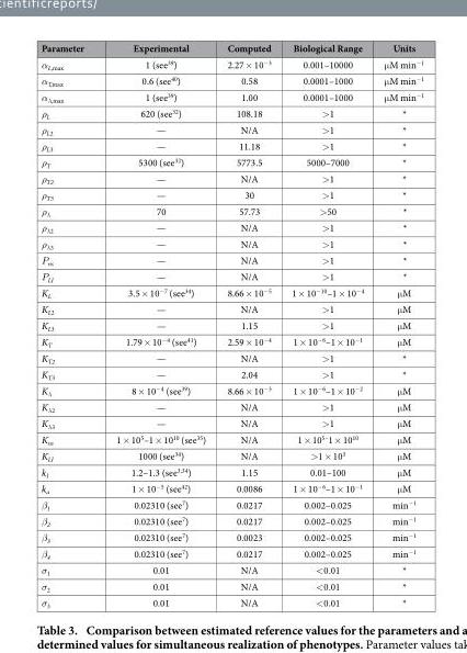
<table><thead><tr><td>Parameter</td><td>Experimental</td><td>Computed</td><td>Biological Range</td><td>Units</td></tr></thead><tbody><tr><td>α<sub>L,max</sub></td><td>1 (see<sup>39</sup>)</td><td>2.27 × 10<sup>−3</sup></td><td>0.001–10000</td><td>μ M min<sup>−1</sup></td></tr><tr><td>α<sub>T,max</sub></td><td>0.6 (see<sup>40</sup>)</td><td>0.58</td><td>0.0001–1000</td><td>μ M min<sup>−1</sup></td></tr><tr><td>α<sub>λ,max</sub></td><td>1 (see<sup>39</sup>)</td><td>1.00</td><td>0.0001–1000</td><td>μ M min<sup>−1</sup></td></tr><tr><td>ρ<sub>L</sub></td><td>620 (see<sup>32</sup>)</td><td>108.18</td><td>&gt; 1</td><td>*</td></tr><tr><td>ρ<sub>L2</sub></td><td>—</td><td>N/A</td><td>&gt; 1</td><td>*</td></tr><tr><td>ρ<sub>L3</sub></td><td>—</td><td>11.18</td><td>&gt; 1</td><td>*</td></tr><tr><td>ρ<sub>T</sub></td><td>5300 (see<sup>32</sup>)</td><td>5773.5</td><td>5000–7000</td><td>*</td></tr><tr><td>ρ<sub>T2</sub></td><td>—</td><td>N/A</td><td>&gt; 1</td><td>*</td></tr><tr><td>ρ<sub>T3</sub></td><td>—</td><td>30</td><td>&gt; 1</td><td>*</td></tr><tr><td>ρ<sub>λ</sub></td><td>70</td><td>57.73</td><td>&gt; 50</td><td>*</td></tr><tr><td>ρ<sub>λ2</sub></td><td>—</td><td>N/A</td><td>&gt; 1</td><td>*</td></tr><tr><td>ρ<sub>λ3</sub></td><td>—</td><td>N/A</td><td>&gt; 1</td><td>*</td></tr><tr><td>Ρ<sub>ns</sub></td><td>—</td><td>N/A</td><td>&gt; 1</td><td>*</td></tr><tr><td>Ρ<sub>LI</sub></td><td>—</td><td>N/A</td><td>&gt; 1</td><td>*</td></tr><tr><td>K<sub>L</sub></td><td>3.5 × 10<sup>−7</sup> (see<sup>34</sup>)</td><td>8.66 × 10<sup>−5</sup></td><td>1 × 10<sup>−10</sup>–1 × 10<sup>−4</sup></td><td>μ M</td></tr><tr><td>K<sub>L2</sub></td><td>—</td><td>N/A</td><td>&gt; 1</td><td>μ M</td></tr><tr><td>K<sub>L3</sub></td><td>—</td><td>1.15</td><td>&gt; 1</td><td>μ M</td></tr><tr><td>K<sub>T</sub></td><td>1.79 × 10<sup>−4</sup> (see<sup>41</sup>)</td><td>2.59 × 10<sup>−4</sup></td><td>1 × 10<sup>−6</sup>–1 × 10<sup>−1</sup></td><td>μ M</td></tr><tr><td>K<sub>T2</sub></td><td>—</td><td>N/A</td><td>&gt; 1</td><td>*</td></tr><tr><td>K<sub>T3</sub></td><td>—</td><td>2.04</td><td>&gt; 1</td><td>*</td></tr><tr><td>K<sub>λ</sub></td><td>8 × 10<sup>−4</sup> (see<sup>39</sup>)</td><td>8.66 × 10<sup>−3</sup></td><td>1 × 10<sup>−6</sup>–1 × 10<sup>−2</sup></td><td>μ M</td></tr><tr><td>K<sub>λ2</sub></td><td>—</td><td>N/A</td><td>&gt; 1</td><td>μ M</td></tr><tr><td>K<sub>λ3</sub></td><td>—</td><td>N/A</td><td>&gt; 1</td><td>μ M</td></tr><tr><td>K<sub>ns</sub></td><td>1 × 10<sup>5</sup>–1 × 10<sup>10</sup> (see<sup>35</sup>)</td><td>N/A</td><td>1 × 10<sup>5–</sup>1 × 10<sup>10</sup></td><td>μ M</td></tr><tr><td>K<sub>LI</sub></td><td>1000 (see<sup>34</sup>)</td><td>N/A</td><td>&gt; 1 × 10<sup>3</sup></td><td>μ M</td></tr><tr><td>k<sub>I</sub></td><td>1.2–1.3 (see<sup>3</sup>,<sup>34</sup>)</td><td>1.15</td><td>0.01–100</td><td>μ M</td></tr><tr><td>k<sub>a</sub></td><td>1 × 10<sup>−5</sup> (see<sup>42</sup>)</td><td>0.0086</td><td>1 × 10<sup>−6</sup>–1 × 10<sup>−1</sup></td><td>μ M</td></tr><tr><td>β<sub>1</sub></td><td>0.02310 (see<sup>7</sup>)</td><td>0.0217</td><td>0.002–0.025</td><td>min<sup>−1</sup></td></tr><tr><td>β<sub>2</sub></td><td>0.02310 (see<sup>7</sup>)</td><td>0.0217</td><td>0.002–0.025</td><td>min<sup>−1</sup></td></tr><tr><td>β<sub>3</sub></td><td>0.02310 (see<sup>7</sup>)</td><td>0.0023</td><td>0.002–0.025</td><td>min<sup>−1</sup></td></tr><tr><td>β<sub>4</sub></td><td>0.02310 (see<sup>7</sup>)</td><td>0.0217</td><td>0.002–0.025</td><td>min<sup>−1</sup></td></tr><tr><td>σ<sub>1</sub></td><td>0.01</td><td>N/A</td><td>&lt; 0.01</td><td>*</td></tr><tr><td>σ<sub>2</sub></td><td>0.01</td><td>N/A</td><td>&lt; 0.01</td><td>*</td></tr><tr><td>σ<sub>3</sub></td><td>0.01</td><td>N/A</td><td>&lt; 0.01</td><td>*</td></tr></tbody></table>